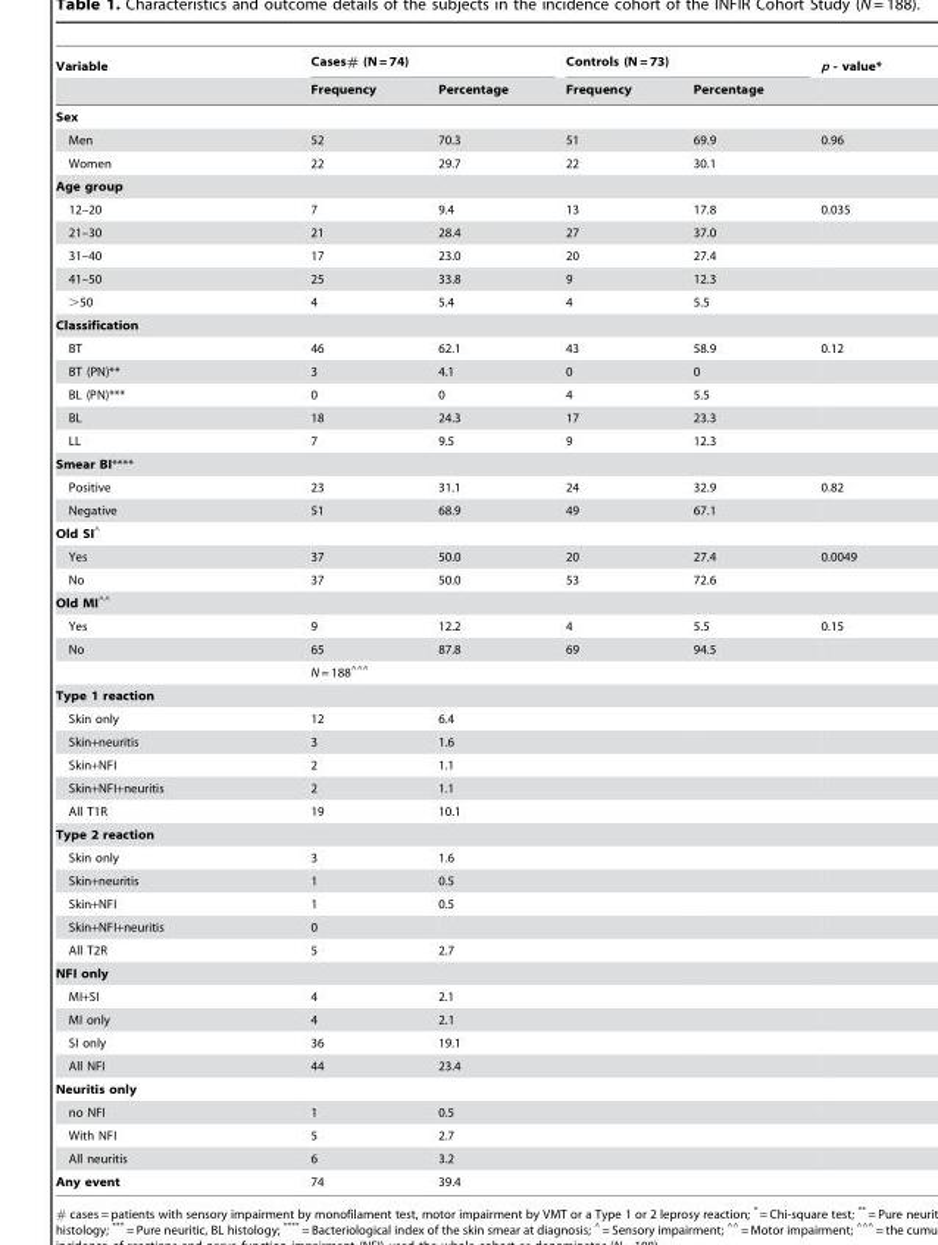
<table><thead><tr><td rowspan="2">Variable</td><td colspan="2">Cases# (N = 74)</td><td colspan="2">Controls (N = 73)</td><td rowspan="2">p - value*</td></tr><tr><td>Frequency</td><td>Percentage</td><td>Frequency</td><td>Percentage</td></tr></thead><tbody><tr><td colspan="6">Sex</td></tr><tr><td>Men</td><td>52</td><td>70.3</td><td>51</td><td>69.9</td><td>0.96</td></tr><tr><td>Women</td><td>22</td><td>29.7</td><td>22</td><td>30.1</td><td></td></tr><tr><td colspan="6">Age group</td></tr><tr><td>12–20</td><td>7</td><td>9.4</td><td>13</td><td>17.8</td><td>0.035</td></tr><tr><td>21–30</td><td>21</td><td>28.4</td><td>27</td><td>37.0</td><td></td></tr><tr><td>31–40</td><td>17</td><td>23.0</td><td>20</td><td>27.4</td><td></td></tr><tr><td>41–50</td><td>25</td><td>33.8</td><td>9</td><td>12.3</td><td></td></tr><tr><td>&gt;50</td><td>4</td><td>5.4</td><td>4</td><td>5.5</td><td></td></tr><tr><td colspan="6">Classification</td></tr><tr><td>BT</td><td>46</td><td>62.1</td><td>43</td><td>58.9</td><td>0.12</td></tr><tr><td>BT (PN)**</td><td>3</td><td>4.1</td><td>0</td><td>0</td><td></td></tr><tr><td>BL (PN)***</td><td>0</td><td>0</td><td>4</td><td>5.5</td><td></td></tr><tr><td>BL</td><td>18</td><td>24.3</td><td>17</td><td>23.3</td><td></td></tr><tr><td>LL</td><td>7</td><td>9.5</td><td>9</td><td>12.3</td><td></td></tr><tr><td colspan="6">Smear BI****</td></tr><tr><td>Positive</td><td>23</td><td>31.1</td><td>24</td><td>32.9</td><td>0.82</td></tr><tr><td>Negative</td><td>51</td><td>68.9</td><td>49</td><td>67.1</td><td></td></tr><tr><td colspan="6">Old SI^</td></tr><tr><td>Yes</td><td>37</td><td>50.0</td><td>20</td><td>27.4</td><td>0.0049</td></tr><tr><td>No</td><td>37</td><td>50.0</td><td>53</td><td>72.6</td><td></td></tr><tr><td colspan="6">Old MI^^</td></tr><tr><td>Yes</td><td>9</td><td>12.2</td><td>4</td><td>5.5</td><td>0.15</td></tr><tr><td rowspan="2">No</td><td>65</td><td>87.8</td><td>69</td><td>94.5</td><td></td></tr><tr><td>N = 188^^^</td><td></td><td></td><td></td><td></td></tr><tr><td colspan="6">Type 1 reaction</td></tr><tr><td>Skin only</td><td>12</td><td>6.4</td><td></td><td></td><td></td></tr><tr><td>Skin+neuritis</td><td>3</td><td>1.6</td><td></td><td></td><td></td></tr><tr><td>Skin+NFI</td><td>2</td><td>1.1</td><td></td><td></td><td></td></tr><tr><td>Skin+NFI+neuritis</td><td>2</td><td>1.1</td><td></td><td></td><td></td></tr><tr><td>All T1R</td><td>19</td><td>10.1</td><td></td><td></td><td></td></tr><tr><td colspan="6">Type 2 reaction</td></tr><tr><td>Skin only</td><td>3</td><td>1.6</td><td></td><td></td><td></td></tr><tr><td>Skin+neuritis</td><td>1</td><td>0.5</td><td></td><td></td><td></td></tr><tr><td>Skin+NFI</td><td>1</td><td>0.5</td><td></td><td></td><td></td></tr><tr><td>Skin+NFI+neuritis</td><td>0</td><td></td><td></td><td></td><td></td></tr><tr><td>All T2R</td><td>5</td><td>2.7</td><td></td><td></td><td></td></tr><tr><td colspan="6">NFI only</td></tr><tr><td>MI+SI</td><td>4</td><td>2.1</td><td></td><td></td><td></td></tr><tr><td>MI only</td><td>4</td><td>2.1</td><td></td><td></td><td></td></tr><tr><td>SI only</td><td>36</td><td>19.1</td><td></td><td></td><td></td></tr><tr><td>All NFI</td><td>44</td><td>23.4</td><td></td><td></td><td></td></tr><tr><td colspan="6">Neuritis only</td></tr><tr><td>no NFI</td><td>1</td><td>0.5</td><td></td><td></td><td></td></tr><tr><td>With NFI</td><td>5</td><td>2.7</td><td></td><td></td><td></td></tr><tr><td>All neuritis</td><td>6</td><td>3.2</td><td></td><td></td><td></td></tr><tr><td>Any event</td><td>74</td><td>39.4</td><td></td><td></td><td></td></tr></tbody></table>